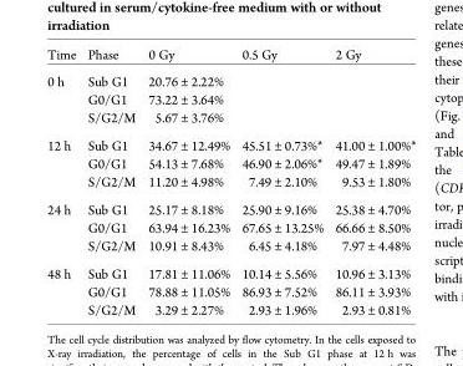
<table><thead><tr><td>Time</td><td>Phase</td><td>0 Gy</td><td>0.5 Gy</td><td>2 Gy</td></tr></thead><tbody><tr><td rowspan="3">0 h</td><td>Sub G1</td><td>20.76 ± 2.22%</td><td></td><td></td></tr><tr><td>G0/G1</td><td>73.22 ± 3.64%</td><td></td><td></td></tr><tr><td>S/G2/M</td><td>5.67 ± 3.76%</td><td></td><td></td></tr><tr><td rowspan="3">12 h</td><td>Sub G1</td><td>34.67 ± 12.49%</td><td>45.51 ± 0.73%*</td><td>41.00 ± 1.00%*</td></tr><tr><td>G0/G1</td><td>54.13 ± 7.68%</td><td>46.90 ± 2.06%*</td><td>49.47 ± 1.89%</td></tr><tr><td>S/G2/M</td><td>11.20 ± 4.98%</td><td>7.49 ± 2.10%</td><td>9.53 ± 1.80%</td></tr><tr><td rowspan="3">24 h</td><td>Sub G1</td><td>25.17 ± 8.18%</td><td>25.90 ± 9.16%</td><td>25.38 ± 4.70%</td></tr><tr><td>G0/G1</td><td>63.94 ± 16.23%</td><td>67.65 ± 13.25%</td><td>66.66 ± 8.50%</td></tr><tr><td>S/G2/M</td><td>10.91 ± 8.43%</td><td>6.45 ± 4.18%</td><td>7.97 ± 4.48%</td></tr><tr><td rowspan="3">48 h</td><td>Sub G1</td><td>17.81 ± 11.06%</td><td>10.14 ± 5.56%</td><td>10.96 ± 3.13%</td></tr><tr><td>G0/G1</td><td>78.88 ± 11.05%</td><td>86.93 ± 7.52%</td><td>86.11 ± 3.93%</td></tr><tr><td>S/G2/M</td><td>3.29 ± 2.27%</td><td>2.93 ± 1.96%</td><td>2.93 ± 0.81%</td></tr></tbody></table>